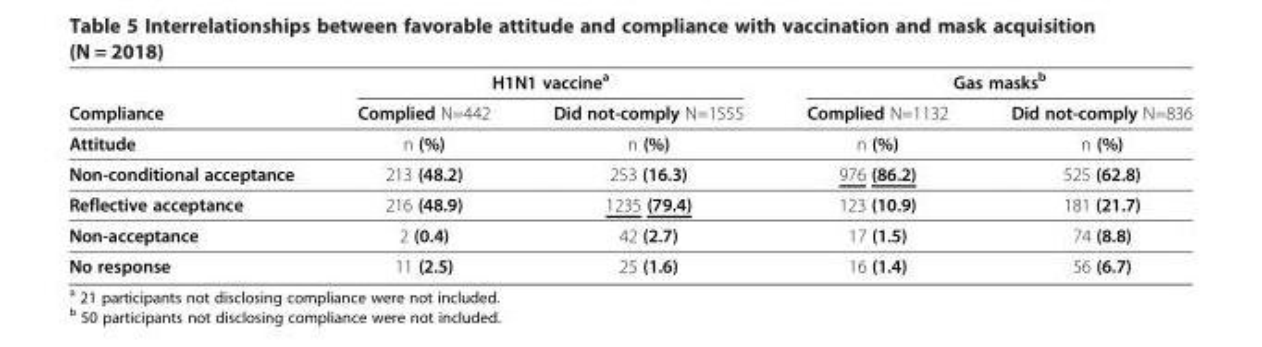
<table><thead><tr><td rowspan="3">Compliance Attitude</td><td colspan="2">H1N1 vaccine<sup>a</sup></td><td colspan="2">Gas masks<sup>b</sup></td></tr><tr><td rowspan="2">Complied N=442 n (%)</td><td rowspan="2">Did not-comply N=1555 n (%)</td><td rowspan="2">Complied N=1132 n (%)</td><td rowspan="2">Did not-comply N=836 n (%)</td></tr><tr></tr></thead><tbody><tr><td>Non-conditional acceptance</td><td>213 (48.2)</td><td>253 (16.3)</td><td>976 (86.2)</td><td>525 (62.8)</td></tr><tr><td>Reflective acceptance</td><td>216 (48.9)</td><td>1235 (79.4)</td><td>123 (10.9)</td><td>181 (21.7)</td></tr><tr><td>Non-acceptance</td><td>2 (0.4)</td><td>42 (2.7)</td><td>17 (1.5)</td><td>74 (8.8)</td></tr><tr><td>No response</td><td>11 (2.5)</td><td>25 (1.6)</td><td>16 (1.4)</td><td>56 (6.7)</td></tr></tbody></table>